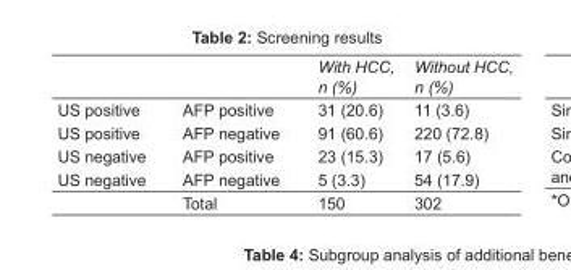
<table><thead><tr><td></td><td></td><td>With HCC, n (%)</td><td>Without HCC, n (%)</td></tr></thead><tbody><tr><td>US positive</td><td>AFP positive</td><td>31 (20.6)</td><td>11 (3.6)</td></tr><tr><td>US positive</td><td>AFP negative</td><td>91 (60.6)</td><td>220 (72.8)</td></tr><tr><td>US negative</td><td>AFP positive</td><td>23 (15.3)</td><td>17 (5.6)</td></tr><tr><td rowspan="2">US negative</td><td>AFP negative</td><td>5 (3.3)</td><td>54 (17.9)</td></tr><tr><td>Total</td><td>150</td><td>302</td></tr></tbody></table>